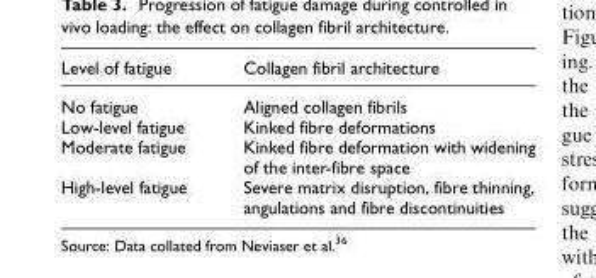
<table><thead><tr><td>Level of fatigue</td><td>Collagen fibril architecture</td></tr></thead><tbody><tr><td>No fatigue</td><td>Aligned collagen fibrils</td></tr><tr><td>Low-level fatigue</td><td>Kinked fibre deformations</td></tr><tr><td>Moderate fatigue</td><td>Kinked fibre deformation with widening of the inter-fibre space</td></tr><tr><td>High-level fatigue</td><td>Severe matrix disruption, fibre thinning, angulations and fibre discontinuities</td></tr></tbody></table>